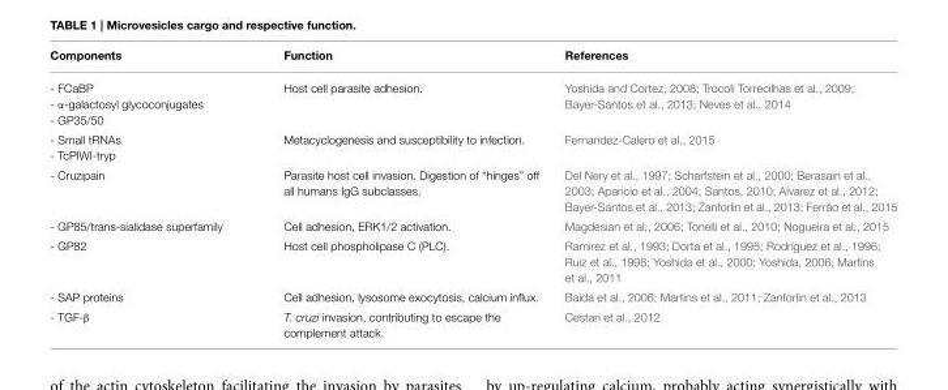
<table><thead><tr><td>Components</td><td>Function</td><td>References</td></tr></thead><tbody><tr><td>- FCaBP - α-galactosyl glycoconjugates - GP35/50</td><td>Host cell parasite adhesion.</td><td>Yoshida and Cortez, 2008; Trocoli Torrecilhas et al., 2009; Bayer-Santos et al., 2013; Neves et al., 2014</td></tr><tr><td>- Small tRNAs - TcPIWI-tryp</td><td>Metacyclogenesis and susceptibility to infection.</td><td>Fernandez-Calero et al., 2015</td></tr><tr><td>- Cruzipain</td><td>Parasite host cell invasion. Digestion of “hinges” off all humans IgG subclasses.</td><td>Del Nery et al., 1997; Scharfstein et al., 2000; Berasain et al., 2003; Aparicio et al., 2004; Santos, 2010; Alvarez et al., 2012; Bayer-Santos et al., 2013; Zanforlin et al., 2013; Ferrão et al., 2015</td></tr><tr><td>- GP85/trans-sialidase superfamily</td><td>Cell adhesion, ERK1/2 activation.</td><td>Magdesian et al., 2006; Tonelli et al., 2010; Nogueira et al., 2015</td></tr><tr><td>- GP82</td><td>Host cell phospholipase C (PLC).</td><td>Ramirez et al., 1993; Dorta et al., 1995; Rodríguez et al., 1996; Ruiz et al., 1998; Yoshida et al., 2000; Yoshida, 2006; Martins et al., 2011</td></tr><tr><td>- SAP proteins</td><td>Cell adhesion, lysosome exocytosis, calcium influx.</td><td>Baida et al., 2006; Martins et al., 2011; Zanforlin et al., 2013</td></tr><tr><td>- TGF-β</td><td>T. cruzi invasion, contributing to escape the complement attack.</td><td>Cestari et al., 2012</td></tr></tbody></table>